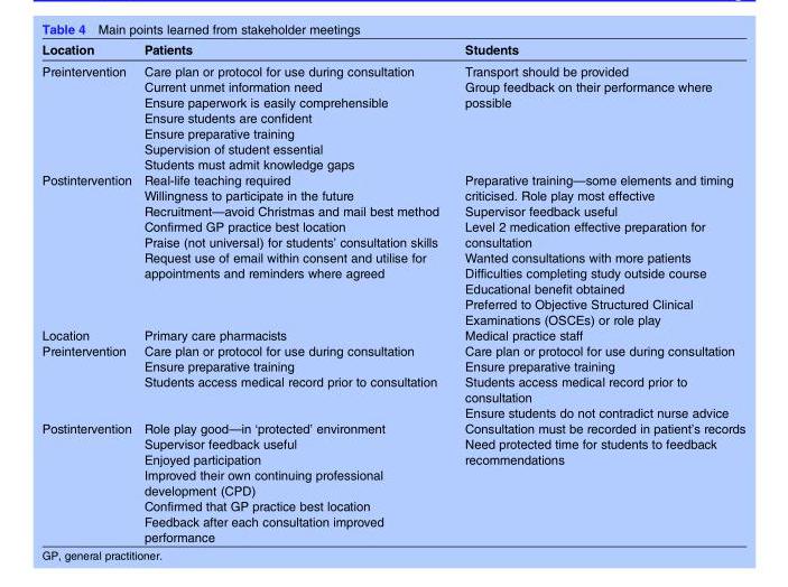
<table><thead><tr><td>Location</td><td>Patients</td><td>Students</td></tr></thead><tbody><tr><td>Preintervention</td><td>Care plan or protocol for use during consultation Current unmet information need Ensure paperwork is easily comprehensible Ensure students are confident Ensure preparative training Supervision of student essential Students must admit knowledge gaps</td><td>Transport should be provided Group feedback on their performance where possible</td></tr><tr><td>Postintervention</td><td>Real-life teaching required Willingness to participate in the future Recruitment—avoid Christmas and mail best method Confirmed GP practice best location Praise (not universal) for students’ consultation skills Request use of email within consent and utilise for appointments and reminders where agreed</td><td>Preparative training—some elements and timing criticised. Role play most effective Supervisor feedback useful Level 2 medication effective preparation for consultation Wanted consultations with more patients Difficulties completing study outside course Educational benefit obtained Preferred to Objective Structured Clinical Examinations (OSCEs) or role play</td></tr><tr><td>Location</td><td>Primary care pharmacists</td><td>Medical practice staff</td></tr><tr><td>Preintervention</td><td>Care plan or protocol for use during consultation Ensure preparative training Students access medical record prior to consultation</td><td>Care plan or protocol for use during consultation Ensure preparative training Students access medical record prior to consultation Ensure students do not contradict nurse advice</td></tr><tr><td>Postintervention</td><td>Role play good—in ‘protected’ environment Supervisor feedback useful Enjoyed participation Improved their own continuing professional development (CPD) Confirmed that GP practice best location Feedback after each consultation improved performance</td><td>Consultation must be recorded in patient’s records Need protected time for students to feedback recommendations</td></tr></tbody></table>